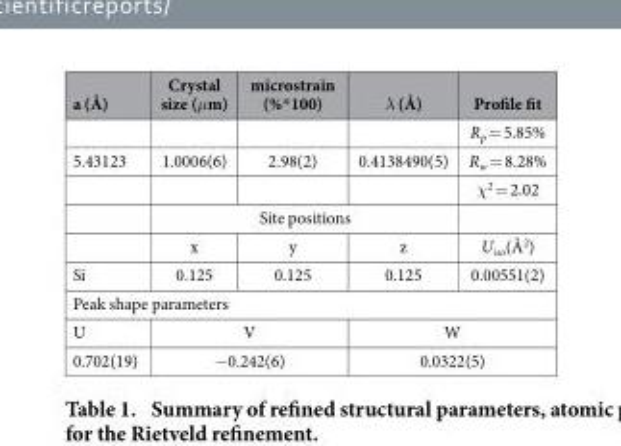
<table><thead><tr><td>a (Å)</td><td>Crystal size (μm)</td><td>microstrain (%* 100)</td><td>λ (Å)</td><td>Profile fit</td></tr></thead><tbody><tr><td></td><td></td><td></td><td></td><td>R<sub>p</sub> = 5.85%</td></tr><tr><td rowspan="4">5.43123</td><td>1.0006(6)</td><td>2.98(2)</td><td>0.4138490(5)</td><td>R<sub>w</sub> = 8.28%</td></tr><tr><td></td><td></td><td></td><td>χ<sup>2</sup> = 2.02</td></tr><tr><td colspan="3">Site positions</td><td></td></tr><tr><td>x</td><td>y</td><td>z</td><td>U<sub>iso</sub>(Å<sup>2</sup>)</td></tr><tr><td>Si</td><td>0.125</td><td>0.125</td><td>0.125</td><td>0.00551(2)</td></tr><tr><td colspan="5">Peak shape parameters</td></tr><tr><td>U</td><td colspan="2">V</td><td colspan="2">W</td></tr><tr><td>0.702(19)</td><td colspan="2">− 0.242(6)</td><td colspan="2">0.0322(5)</td></tr></tbody></table>